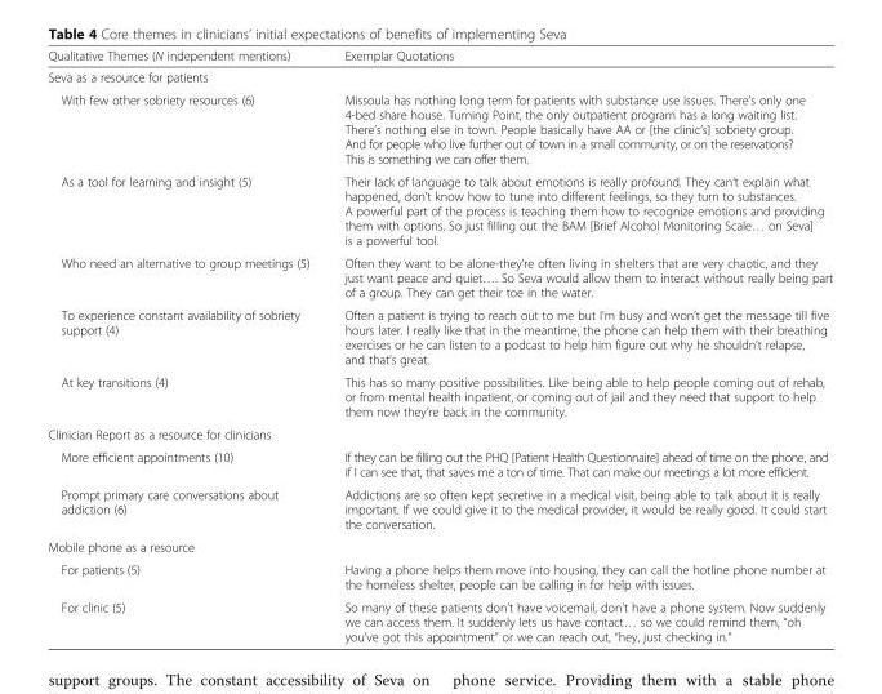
<table><thead><tr><td>Qualitative Themes (N independent mentions)</td><td>Exemplar Quotations</td></tr></thead><tbody><tr><td colspan="2">Seva as a resource for patients</td></tr><tr><td>With few other sobriety resources (6)</td><td>Missoula has nothing long term for patients with substance use issues. There’s only one 4-bed share house. Turning Point, the only outpatient program has a long waiting list. There’s nothing else in town. People basically have AA or [the clinic’s] sobriety group. And for people who live further out of town in a small community, or on the reservations? This is something we can offer them.</td></tr><tr><td>As a tool for learning and insight (5)</td><td>Their lack of language to talk about emotions is really profound. They can’t explain what happened, don’t know how to tune into different feelings, so they turn to substances. A powerful part of the process is teaching them how to recognize emotions and providing them with options. So just filling out the BAM [Brief Alcohol Monitoring Scale… on Seva] is a powerful tool.</td></tr><tr><td>Who need an alternative to group meetings (5)</td><td>Often they want to be alone-they’re often living in shelters that are very chaotic, and they just want peace and quiet…. So Seva would allow them to interact without really being part of a group. They can get their toe in the water.</td></tr><tr><td>To experience constant availability of sobriety support (4)</td><td>Often a patient is trying to reach out to me but I’m busy and won’t get the message till five hours later. I really like that in the meantime, the phone can help them with their breathing exercises or he can listen to a podcast to help him figure out why he shouldn’t relapse, and that’s great.</td></tr><tr><td>At key transitions (4)</td><td>This has so many positive possibilities. Like being able to help people coming out of rehab, or from mental health inpatient, or coming out of jail and they need that support to help them now they’re back in the community.</td></tr><tr><td colspan="2">Clinician Report as a resource for clinicians</td></tr><tr><td>More efficient appointments (10)</td><td>If they can be filling out the PHQ [Patient Health Questionnaire] ahead of time on the phone, and if I can see that, that saves me a ton of time. That can make our meetings a lot more efficient.</td></tr><tr><td>Prompt primary care conversations about addiction (6)</td><td>Addictions are so often kept secretive in a medical visit, being able to talk about it is really important. If we could give it to the medical provider, it would be really good. It could start the conversation.</td></tr><tr><td colspan="2">Mobile phone as a resource</td></tr><tr><td>For patients (5)</td><td>Having a phone helps them move into housing, they can call the hotline phone number at the homeless shelter, people can be calling in for help with issues.</td></tr><tr><td>For clinic (5)</td><td>So many of these patients don’t have voicemail, don’t have a phone system. Now suddenly we can access them. It suddenly lets us have contact… so we could remind them, “oh you’ve got this appointment” or we can reach out, “hey, just checking in.”</td></tr></tbody></table>